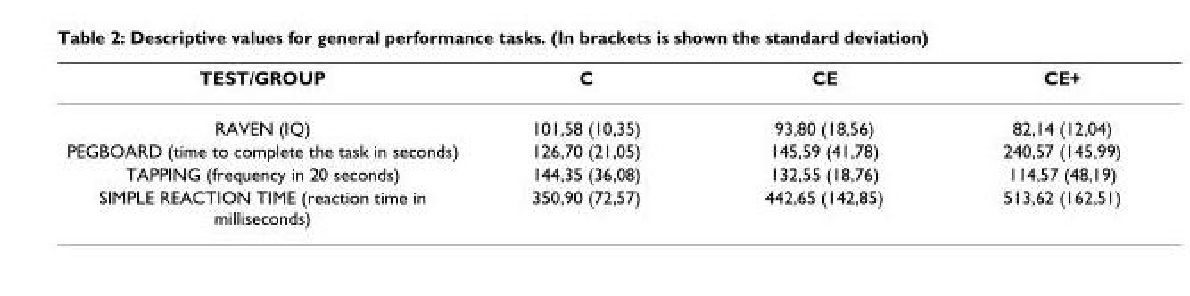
<table><thead><tr><td>TEST/GROUP</td><td>C</td><td>CE</td><td>CE+</td></tr></thead><tbody><tr><td>RAVEN (IQ)</td><td>101,58 (10,35)</td><td>93,80 (18,56)</td><td>82,14 (12,04)</td></tr><tr><td>PEGBOARD (time to complete the task in seconds)</td><td>126,70 (21,05)</td><td>145,59 (41,78)</td><td>240,57 (145,99)</td></tr><tr><td>TAPPING (frequency in 20 seconds)</td><td>144,35 (36,08)</td><td>132,55 (18,76)</td><td>114,57 (48,19)</td></tr><tr><td>SIMPLE REACTION TIME (reaction time in milliseconds)</td><td>350,90 (72,57)</td><td>442,65 (142,85)</td><td>513,62 (162,51)</td></tr></tbody></table>